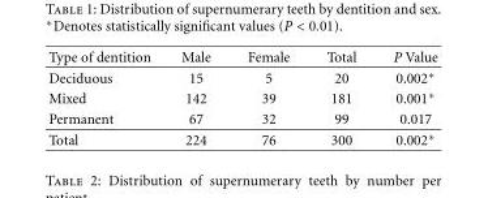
<table><thead><tr><td>Type of dentition</td><td>Male</td><td>Female</td><td>Total</td><td>P Value</td></tr></thead><tbody><tr><td>Deciduous</td><td>15</td><td>5</td><td>20</td><td>0.002∗</td></tr><tr><td>Mixed</td><td>142</td><td>39</td><td>181</td><td>0.001∗</td></tr><tr><td>Permanent</td><td>67</td><td>32</td><td>99</td><td>0.017</td></tr><tr><td>Total</td><td>224</td><td>76</td><td>300</td><td>0.002∗</td></tr></tbody></table>